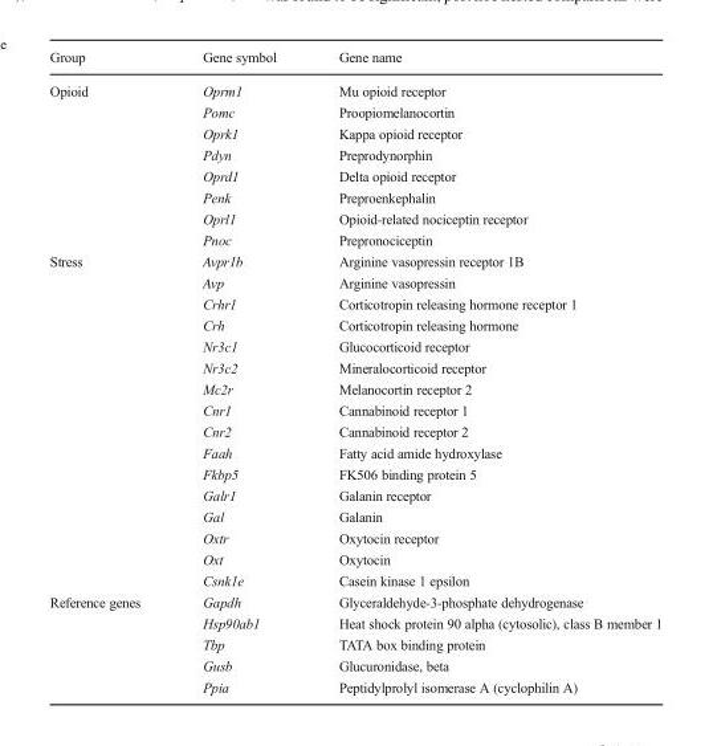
<table><thead><tr><td>Group</td><td>Gene symbol</td><td>Gene name</td></tr></thead><tbody><tr><td rowspan="8">Opioid</td><td>Oprm1</td><td>Mu opioid receptor</td></tr><tr><td>Pomc</td><td>Proopiomelanocortin</td></tr><tr><td>Oprk1</td><td>Kappa opioid receptor</td></tr><tr><td>Pdyn</td><td>Preprodynorphin</td></tr><tr><td>Oprd1</td><td>Delta opioid receptor</td></tr><tr><td>Penk</td><td>Preproenkephalin</td></tr><tr><td>Oprl1</td><td>Opioid-related nociceptin receptor</td></tr><tr><td>Pnoc</td><td>Prepronociceptin</td></tr><tr><td rowspan="16">Stress</td><td>Avpr1b</td><td>Arginine vasopressin receptor 1B</td></tr><tr><td>Avp</td><td>Arginine vasopressin</td></tr><tr><td>Crhr1</td><td>Corticotropin releasing hormone receptor 1</td></tr><tr><td>Crh</td><td>Corticotropin releasing hormone</td></tr><tr><td>Nr3c1</td><td>Glucocorticoid receptor</td></tr><tr><td>Nr3c2</td><td>Mineralocorticoid receptor</td></tr><tr><td>Mc2r</td><td>Melanocortin receptor 2</td></tr><tr><td>Cnr1</td><td>Cannabinoid receptor 1</td></tr><tr><td>Cnr2</td><td>Cannabinoid receptor 2</td></tr><tr><td>Faah</td><td>Fatty acid amide hydroxylase</td></tr><tr><td>Fkbp5</td><td>FK506 binding protein 5</td></tr><tr><td>Galr1</td><td>Galanin receptor</td></tr><tr><td>Gal</td><td>Galanin</td></tr><tr><td>Oxtr</td><td>Oxytocin receptor</td></tr><tr><td>Oxt</td><td>Oxytocin</td></tr><tr><td>Csnk1e</td><td>Casein kinase 1 epsilon</td></tr><tr><td rowspan="5">Reference genes</td><td>Gapdh</td><td>Glyceraldehyde-3-phosphate dehydrogenase</td></tr><tr><td>Hsp90ab1</td><td>Heat shock protein 90 alpha (cytosolic), class B member 1</td></tr><tr><td>Tbp</td><td>TATA box binding protein</td></tr><tr><td>Gusb</td><td>Glucuronidase, beta</td></tr><tr><td>Ppia</td><td>Peptidylprolyl isomerase A (cyclophilin A)</td></tr></tbody></table>